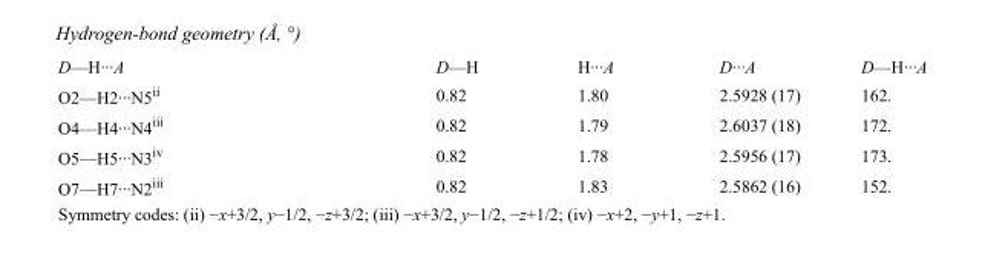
<table><tbody><tr><td>D—H···A</td><td>D—H</td><td>H···A</td><td>D···A</td><td>D—H···A</td></tr><tr><td>O2—H2···N5<sup>ii</sup></td><td>0.82</td><td>1.80</td><td>2.5928 (17)</td><td>162.</td></tr><tr><td>O4—H4···N4<sup>iii</sup></td><td>0.82</td><td>1.79</td><td>2.6037 (18)</td><td>172.</td></tr><tr><td>O5—H5···N3<sup>iv</sup></td><td>0.82</td><td>1.78</td><td>2.5956 (17)</td><td>173.</td></tr><tr><td>O7—H7···N2<sup>iii</sup></td><td>0.82</td><td>1.83</td><td>2.5862 (16)</td><td>152.</td></tr></tbody></table>